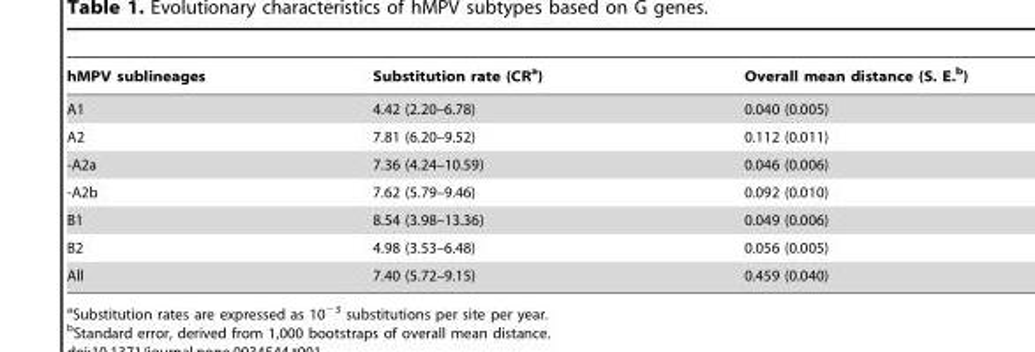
<table><thead><tr><td>hMPV sublineages</td><td>Substitution rate (CR<sup>a</sup>)</td><td>Overall mean distance (S. E.<sup>b</sup>)</td></tr></thead><tbody><tr><td>A1</td><td>4.42 (2.20–6.78)</td><td>0.040 (0.005)</td></tr><tr><td>A2</td><td>7.81 (6.20–9.52)</td><td>0.112 (0.011)</td></tr><tr><td>-A2a</td><td>7.36 (4.24–10.59)</td><td>0.046 (0.006)</td></tr><tr><td>-A2b</td><td>7.62 (5.79–9.46)</td><td>0.092 (0.010)</td></tr><tr><td>B1</td><td>8.54 (3.98–13.36)</td><td>0.049 (0.006)</td></tr><tr><td>B2</td><td>4.98 (3.53–6.48)</td><td>0.056 (0.005)</td></tr><tr><td>All</td><td>7.40 (5.72–9.15)</td><td>0.459 (0.040)</td></tr></tbody></table>